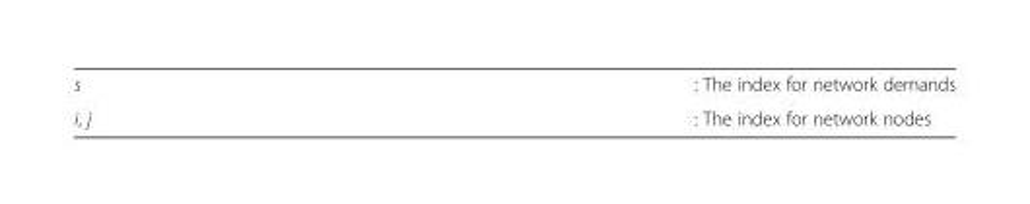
<table><tbody><tr><td>s</td><td>: The index for network demands</td></tr><tr><td>i, j</td><td>: The index for network nodes</td></tr></tbody></table>